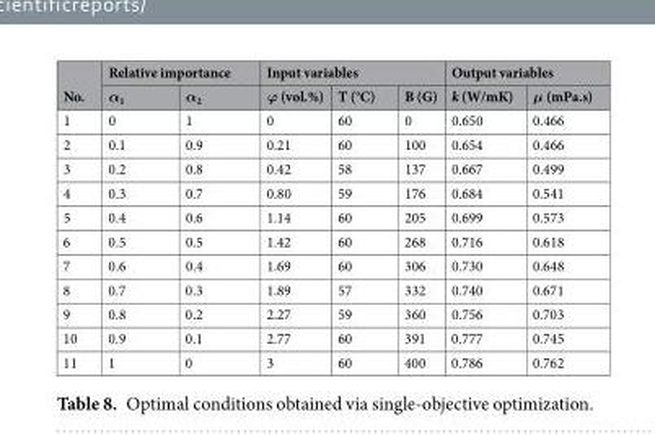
<table><thead><tr><td rowspan="2">No.</td><td colspan="2">Relative importance</td><td colspan="3">Input variables</td><td colspan="2">Output variables</td></tr><tr><td>α<sub>1</sub></td><td>α<sub>2</sub></td><td>ϕ (vol.%)</td><td>T (°C)</td><td>B (G)</td><td>k (W/mK)</td><td>μ (mPa.s)</td></tr></thead><tbody><tr><td>1</td><td>0</td><td>1</td><td>0</td><td>60</td><td>0</td><td>0.650</td><td>0.466</td></tr><tr><td>2</td><td>0.1</td><td>0.9</td><td>0.21</td><td>60</td><td>100</td><td>0.654</td><td>0.466</td></tr><tr><td>3</td><td>0.2</td><td>0.8</td><td>0.42</td><td>58</td><td>137</td><td>0.667</td><td>0.499</td></tr><tr><td>4</td><td>0.3</td><td>0.7</td><td>0.80</td><td>59</td><td>176</td><td>0.684</td><td>0.541</td></tr><tr><td>5</td><td>0.4</td><td>0.6</td><td>1.14</td><td>60</td><td>205</td><td>0.699</td><td>0.573</td></tr><tr><td>6</td><td>0.5</td><td>0.5</td><td>1.42</td><td>60</td><td>268</td><td>0.716</td><td>0.618</td></tr><tr><td>7</td><td>0.6</td><td>0.4</td><td>1.69</td><td>60</td><td>306</td><td>0.730</td><td>0.648</td></tr><tr><td>8</td><td>0.7</td><td>0.3</td><td>1.89</td><td>57</td><td>332</td><td>0.740</td><td>0.671</td></tr><tr><td>9</td><td>0.8</td><td>0.2</td><td>2.27</td><td>59</td><td>360</td><td>0.756</td><td>0.703</td></tr><tr><td>10</td><td>0.9</td><td>0.1</td><td>2.77</td><td>60</td><td>391</td><td>0.777</td><td>0.745</td></tr><tr><td>11</td><td>1</td><td>0</td><td>3</td><td>60</td><td>400</td><td>0.786</td><td>0.762</td></tr></tbody></table>